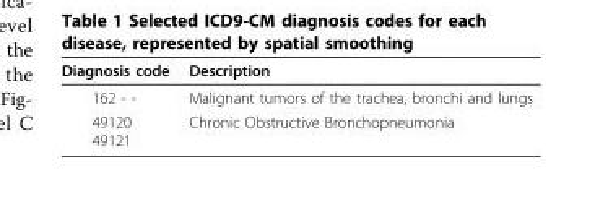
<table><thead><tr><td>Diagnosis code</td><td>Description</td></tr></thead><tbody><tr><td>162 - -</td><td>Malignant tumors of the trachea, bronchi and lungs</td></tr><tr><td>49120 49121</td><td>Chronic Obstructive Bronchopneumonia</td></tr></tbody></table>